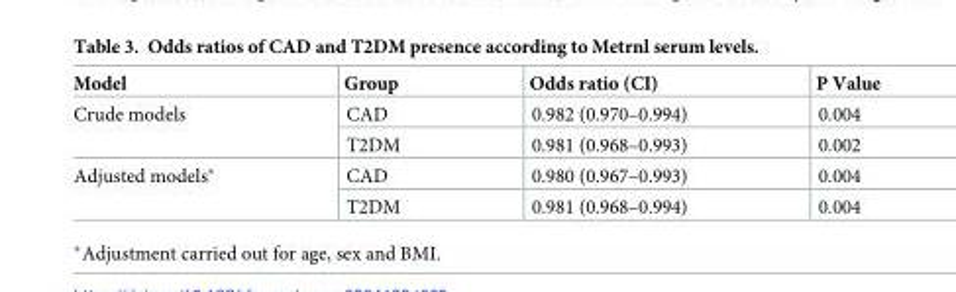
<table><thead><tr><td>Model</td><td>Group</td><td>Odds ratio (CI)</td><td>P Value</td></tr></thead><tbody><tr><td rowspan="2">Crude models</td><td>CAD</td><td>0.982 (0.970–0.994)</td><td>0.004</td></tr><tr><td>T2DM</td><td>0.981 (0.968–0.993)</td><td>0.002</td></tr><tr><td rowspan="2">Adjusted models*</td><td>CAD</td><td>0.980 (0.967–0.993)</td><td>0.004</td></tr><tr><td>T2DM</td><td>0.981 (0.968–0.994)</td><td>0.004</td></tr></tbody></table>